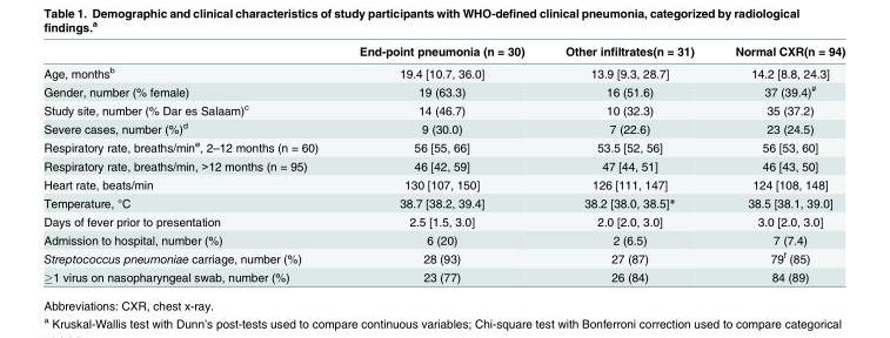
<table><thead><tr><td></td><td>End-point pneumonia (n = 30)</td><td>Other infiltrates(n = 31)</td><td>Normal CXR(n = 94)</td></tr></thead><tbody><tr><td>Age, months<sup>b</sup></td><td>19.4 [10.7, 36.0]</td><td>13.9 [9.3, 28.7]</td><td>14.2 [8.8, 24.3]</td></tr><tr><td>Gender, number (% female)</td><td>19 (63.3)</td><td>16 (51.6)</td><td>37 (39.4)<sup>#</sup></td></tr><tr><td>Study site, number (% Dar es Salaam)<sup>c</sup></td><td>14 (46.7)</td><td>10 (32.3)</td><td>35 (37.2)</td></tr><tr><td>Severe cases, number (%)<sup>d</sup></td><td>9 (30.0)</td><td>7 (22.6)</td><td>23 (24.5)</td></tr><tr><td>Respiratory rate, breaths/min<sup>e</sup>, 2–12 months (n = 60)</td><td>56 [55, 66]</td><td>53.5 [52, 56]</td><td>56 [53, 60]</td></tr><tr><td>Respiratory rate, breaths/min, &gt;12 months (n = 95)</td><td>46 [42, 59]</td><td>47 [44, 51]</td><td>46 [43, 50]</td></tr><tr><td>Heart rate, beats/min</td><td>130 [107, 150]</td><td>126 [111, 147]</td><td>124 [108, 148]</td></tr><tr><td>Temperature, °C</td><td>38.7 [38.2, 39.4]</td><td>38.2 [38.0, 38.5]*</td><td>38.5 [38.1, 39.0]</td></tr><tr><td>Days of fever prior to presentation</td><td>2.5 [1.5, 3.0]</td><td>2.0 [2.0, 3.0]</td><td>3.0 [2.0, 3.0]</td></tr><tr><td>Admission to hospital, number (%)</td><td>6 (20)</td><td>2 (6.5)</td><td>7 (7.4)</td></tr><tr><td>Streptococcus pneumoniae carriage, number (%)</td><td>28 (93)</td><td>27 (87)</td><td>79<sup>f</sup> (85)</td></tr><tr><td>≥1 virus on nasopharyngeal swab, number (%)</td><td>23 (77)</td><td>26 (84)</td><td>84 (89)</td></tr></tbody></table>